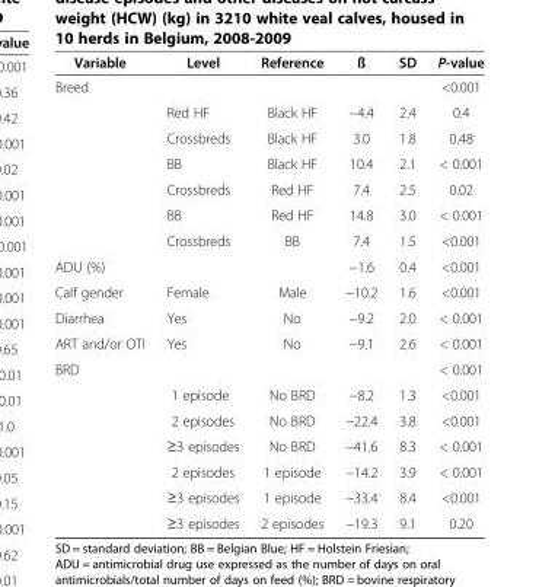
<table><thead><tr><td>Variable</td><td>Level</td><td>Reference</td><td>ß</td><td>SD</td><td>P-value</td></tr></thead><tbody><tr><td rowspan="7">Breed</td><td></td><td></td><td></td><td></td><td>&lt;0.001</td></tr><tr><td>Red HF</td><td>Black HF</td><td>−4.4</td><td>2.4</td><td>0.4</td></tr><tr><td>Crossbreds</td><td>Black HF</td><td>3.0</td><td>1.8</td><td>0.48</td></tr><tr><td>BB</td><td>Black HF</td><td>10.4</td><td>2.1</td><td>&lt; 0.001</td></tr><tr><td>Crossbreds</td><td>Red HF</td><td>7.4</td><td>2.5</td><td>0.02</td></tr><tr><td>BB</td><td>Red HF</td><td>14.8</td><td>3.0</td><td>&lt; 0.001</td></tr><tr><td>Crossbreds</td><td>BB</td><td>7.4</td><td>1.5</td><td>&lt;0.001</td></tr><tr><td>ADU (%)</td><td></td><td></td><td>−1.6</td><td>0.4</td><td>&lt;0.001</td></tr><tr><td>Calf gender</td><td>Female</td><td>Male</td><td>−10.2</td><td>1.6</td><td>&lt;0.001</td></tr><tr><td>Diarrhea</td><td>Yes</td><td>No</td><td>−9.2</td><td>2.0</td><td>&lt; 0.001</td></tr><tr><td>ART and/or OTI</td><td>Yes</td><td>No</td><td>−9.1</td><td>2.6</td><td>&lt; 0.001</td></tr><tr><td rowspan="7">BRD</td><td></td><td></td><td></td><td></td><td>&lt; 0.001</td></tr><tr><td>1 episode</td><td>No BRD</td><td>−8.2</td><td>1.3</td><td>&lt;0.001</td></tr><tr><td>2 episodes</td><td>No BRD</td><td>−22.4</td><td>3.8</td><td>&lt;0.001</td></tr><tr><td>≥3 episodes</td><td>No BRD</td><td>−41.6</td><td>8.3</td><td>&lt; 0.001</td></tr><tr><td>2 episodes</td><td>1 episode</td><td>−14.2</td><td>3.9</td><td>&lt; 0.001</td></tr><tr><td>≥3 episodes</td><td>1 episode</td><td>−33.4</td><td>8.4</td><td>&lt;0.001</td></tr><tr><td>≥3 episodes</td><td>2 episodes</td><td>−19.3</td><td>9.1</td><td>0.20</td></tr></tbody></table>